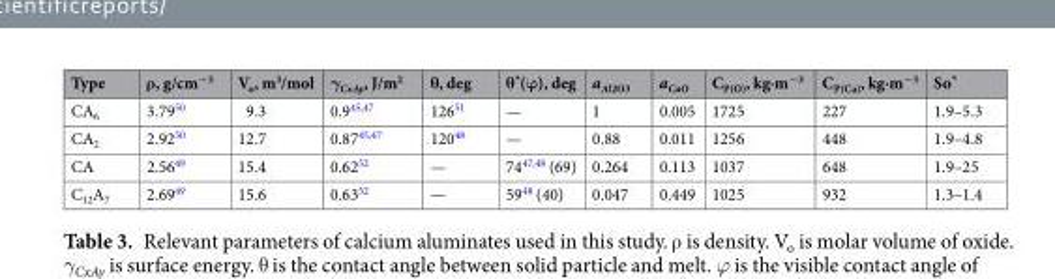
<table><thead><tr><td>Type</td><td>ρ, g/cm<sup>−3</sup></td><td>V<sub>o</sub>, m<sup>3</sup>/mol</td><td>γ<sub>CxAy</sub>, J/m<sup>2</sup></td><td>θ, deg</td><td>θ*(ϕ), deg</td><td>a<sub>Al2O3</sub></td><td>a<sub>CaO</sub></td><td>C<sub>P(O)</sub>, kg·m<sup>−3</sup></td><td>C<sub>P(Ca)</sub>, kg·m<sup>−3</sup></td><td>So*</td></tr></thead><tbody><tr><td>CA<sub>6</sub></td><td>3.79<sup>50</sup></td><td>9.3</td><td>0.9<sup>45,47</sup></td><td>126<sup>51</sup></td><td>—</td><td>1</td><td>0.005</td><td>1725</td><td>227</td><td>1.9–5.3</td></tr><tr><td>CA<sub>2</sub></td><td>2.92<sup>50</sup></td><td>12.7</td><td>0.87<sup>45,47</sup></td><td>120<sup>48</sup></td><td>—</td><td>0.88</td><td>0.011</td><td>1256</td><td>448</td><td>1.9–4.8</td></tr><tr><td>CA</td><td>2.56<sup>49</sup></td><td>15.4</td><td>0.62<sup>52</sup></td><td>—</td><td>74<sup>47,48</sup> (69)</td><td>0.264</td><td>0.113</td><td>1037</td><td>648</td><td>1.9–25</td></tr><tr><td>C<sub>12</sub>A<sub>7</sub></td><td>2.69<sup>49</sup></td><td>15.6</td><td>0.63<sup>52</sup></td><td>—</td><td>59<sup>48</sup> (40)</td><td>0.047</td><td>0.449</td><td>1025</td><td>932</td><td>1.3–1.4</td></tr></tbody></table>